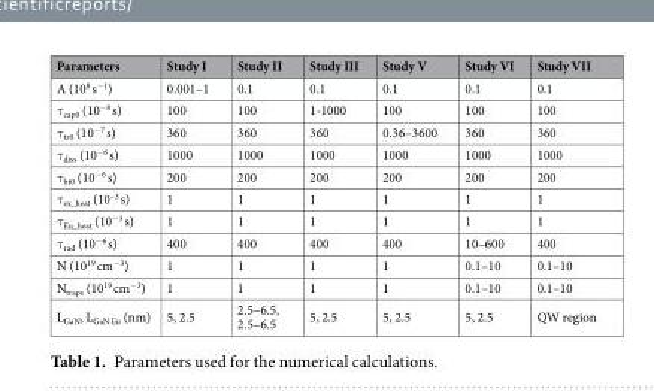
<table><thead><tr><td>Parameters</td><td>Study I</td><td>Study II</td><td>Study III</td><td>Study V</td><td>Study VI</td><td>Study VII</td></tr></thead><tbody><tr><td>A (10<sup>8</sup> s<sup>−1</sup>)</td><td>0.001–1</td><td>0.1</td><td>0.1</td><td>0.1</td><td>0.1</td><td>0.1</td></tr><tr><td>τ<sub>cap0</sub> (10<sup>−8</sup> s)</td><td>100</td><td>100</td><td>1-1000</td><td>100</td><td>100</td><td>100</td></tr><tr><td>τ<sub>tr0</sub> (10<sup>−7</sup> s)</td><td>360</td><td>360</td><td>360</td><td>0.36–3600</td><td>360</td><td>360</td></tr><tr><td>τ<sub>diss</sub> (10<sup>−6</sup> s)</td><td>1000</td><td>1000</td><td>1000</td><td>1000</td><td>1000</td><td>1000</td></tr><tr><td>τ<sub>bt0</sub> (10<sup>−6</sup> s)</td><td>200</td><td>200</td><td>200</td><td>200</td><td>200</td><td>200</td></tr><tr><td>τ<sub>ex_heat</sub> (10<sup>–3</sup> s)</td><td>1</td><td>1</td><td>1</td><td>1</td><td>1</td><td>1</td></tr><tr><td>τ<sub>Eu_heat</sub> (10<sup>−3</sup> s)</td><td>1</td><td>1</td><td>1</td><td>1</td><td>1</td><td>1</td></tr><tr><td>τ<sub>rad</sub> (10<sup>−6</sup> s)</td><td>400</td><td>400</td><td>400</td><td>400</td><td>10–600</td><td>400</td></tr><tr><td>N (10<sup>19</sup> cm<sup>−3</sup>)</td><td>1</td><td>1</td><td>1</td><td>1</td><td>0.1–10</td><td>0.1–10</td></tr><tr><td>N<sub>traps</sub> (10<sup>19</sup> cm<sup>−3</sup>)</td><td>1</td><td>1</td><td>1</td><td>1</td><td>0.1–10</td><td>0.1–10</td></tr><tr><td>L<sub>GaN</sub>, L<sub>GaN:Eu</sub> (nm)</td><td>5, 2.5</td><td>2.5–6.5, 2.5–6.5</td><td>5, 2.5</td><td>5, 2.5</td><td>5, 2.5</td><td>QW region</td></tr></tbody></table>